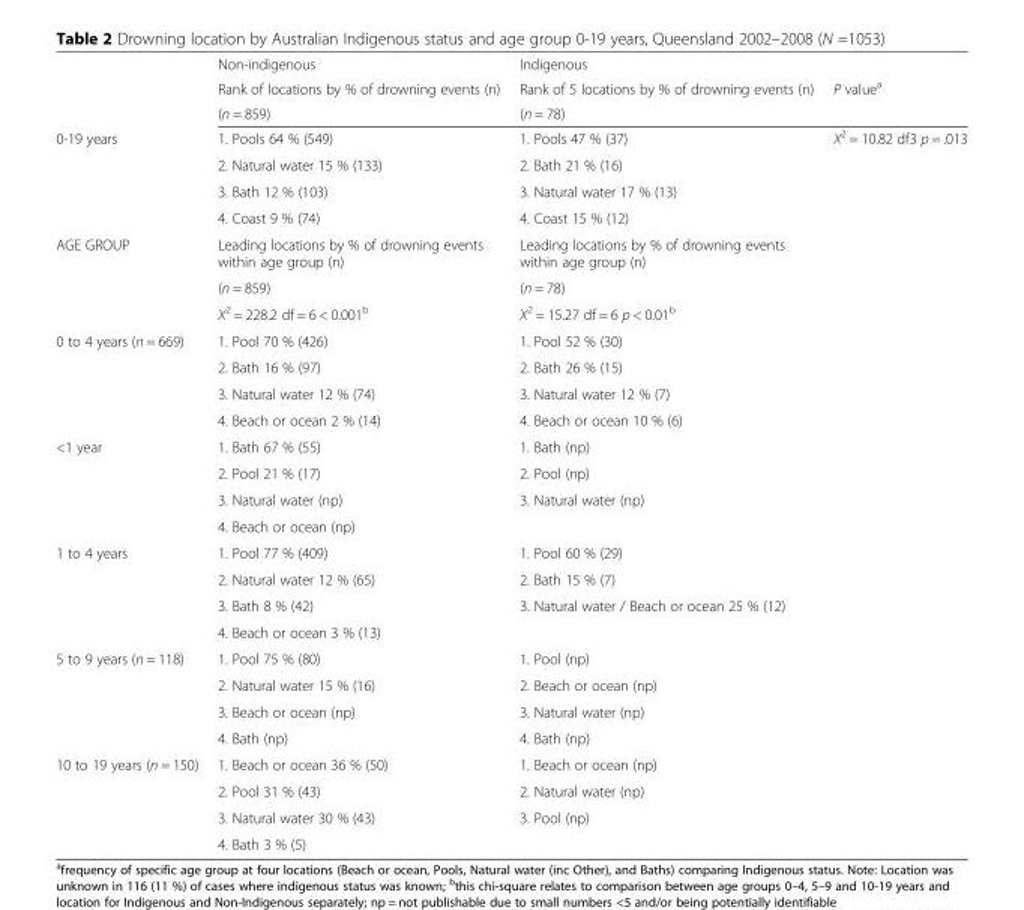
<table><thead><tr><td rowspan="3"></td><td rowspan="3">Non-indigenous Rank of locations by % of drowning events (n) (n = 859)</td><td rowspan="3">Indigenous Rank of 5 locations by % of drowning events (n) (n = 78)</td><td rowspan="3">P value<sup>a</sup></td></tr><tr></tr><tr></tr></thead><tbody><tr><td rowspan="4">0-19 years</td><td>1. Pools 64 % (549)</td><td>1. Pools 47 % (37)</td><td rowspan="4">X<sup>2</sup> = 10.82 df3 p = .013</td></tr><tr><td>2. Natural water 15 % (133)</td><td>2. Bath 21 % (16)</td></tr><tr><td>3. Bath 12 % (103)</td><td>3. Natural water 17 % (13)</td></tr><tr><td>4. Coast 9 % (74)</td><td>4. Coast 15 % (12)</td></tr><tr><td rowspan="3">AGE GROUP</td><td>Leading locations by % of drowning events within age group (n)</td><td>Leading locations by % of drowning events within age group (n)</td><td rowspan="2"></td></tr><tr><td>(n = 859)</td><td>(n = 78)</td></tr><tr><td>X<sup>2</sup> = 228.2 df = 6 &lt; 0.001<sup>b</sup></td><td>X<sup>2</sup> = 15.27 df = 6 p &lt; 0.01<sup>b</sup></td><td></td></tr><tr><td rowspan="4">0 to 4 years (n = 669)</td><td>1. Pool 70 % (426)</td><td>1. Pool 52 % (30)</td><td rowspan="4"></td></tr><tr><td>2. Bath 16 % (97)</td><td>2. Bath 26 % (15)</td></tr><tr><td>3. Natural water 12 % (74)</td><td>3. Natural water 12 % (7)</td></tr><tr><td>4. Beach or ocean 2 % (14)</td><td>4. Beach or ocean 10 % (6)</td></tr><tr><td rowspan="4">&lt;1 year</td><td>1. Bath 67 % (55)</td><td>1. Bath (np)</td><td rowspan="8"></td></tr><tr><td>2. Pool 21 % (17)</td><td>2. Pool (np)</td></tr><tr><td>3. Natural water (np)</td><td rowspan="2">3. Natural water (np)</td></tr><tr><td>4. Beach or ocean (np)</td></tr><tr><td rowspan="4">1 to 4 years</td><td>1. Pool 77 % (409)</td><td>1. Pool 60 % (29)</td></tr><tr><td>2. Natural water 12 % (65)</td><td>2. Bath 15 % (7)</td></tr><tr><td>3. Bath 8 % (42)</td><td rowspan="2">3. Natural water / Beach or ocean 25 % (12)</td></tr><tr><td>4. Beach or ocean 3 % (13)</td></tr><tr><td rowspan="4">5 to 9 years (n = 118)</td><td>1. Pool 75 % (80)</td><td>1. Pool (np)</td><td rowspan="4"></td></tr><tr><td>2. Natural water 15 % (16)</td><td>2. Beach or ocean (np)</td></tr><tr><td>3. Beach or ocean (np)</td><td>3. Natural water (np)</td></tr><tr><td>4. Bath (np)</td><td>4. Bath (np)</td></tr><tr><td rowspan="4">10 to 19 years (n = 150)</td><td>1. Beach or ocean 36 % (50)</td><td>1. Beach or ocean (np)</td><td rowspan="4"></td></tr><tr><td>2. Pool 31 % (43)</td><td>2. Natural water (np)</td></tr><tr><td>3. Natural water 30 % (43)</td><td rowspan="2">3. Pool (np)</td></tr><tr><td>4. Bath 3 % (5)</td></tr></tbody></table>